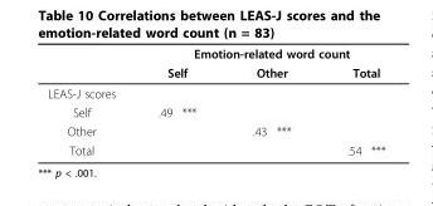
<table><thead><tr><td rowspan="3">LEAS-J scores</td><td colspan="6">Emotion-related word count</td></tr><tr><td colspan="2">Self</td><td colspan="2">Other</td><td colspan="2">Total</td></tr><tr><td></td><td></td><td></td><td></td><td></td><td></td></tr></thead><tbody><tr><td>Self</td><td>.49</td><td>***</td><td></td><td></td><td></td><td></td></tr><tr><td>Other</td><td></td><td></td><td>.43</td><td>***</td><td></td><td></td></tr><tr><td>Total</td><td></td><td></td><td></td><td></td><td>.54</td><td>***</td></tr></tbody></table>